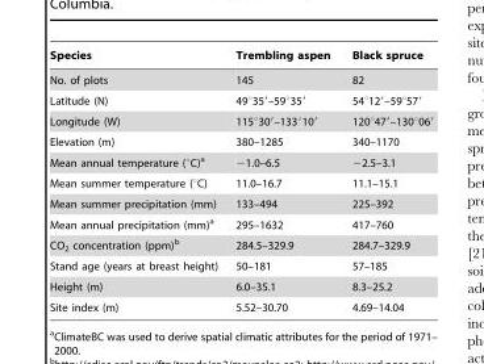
<table><thead><tr><td>Species</td><td>Trembling aspen</td><td>Black spruce</td></tr></thead><tbody><tr><td>No. of plots</td><td>145</td><td>82</td></tr><tr><td>Latitude (N)</td><td>49°35′–59°35′</td><td>54°12′–59°57′</td></tr><tr><td>Longitude (W)</td><td>115°30′–133°10′</td><td>120°47′–130°06′</td></tr><tr><td>Elevation (m)</td><td>380–1285</td><td>340–1170</td></tr><tr><td>Mean annual temperature (°C)<sup>a</sup></td><td>−1.0–6.5</td><td>−2.5–3.1</td></tr><tr><td>Mean summer temperature (°C)</td><td>11.0–16.7</td><td>11.1–15.1</td></tr><tr><td>Mean summer precipitation (mm)</td><td>133–494</td><td>225–392</td></tr><tr><td>Mean annual precipitation (mm)<sup>a</sup></td><td>295–1632</td><td>417–760</td></tr><tr><td>CO<sub>2</sub> concentration (ppm)<sup>b</sup></td><td>284.5–329.9</td><td>284.7–329.9</td></tr><tr><td>Stand age (years at breast height)</td><td>50–181</td><td>57–185</td></tr><tr><td>Height (m)</td><td>6.0–35.1</td><td>8.3–25.2</td></tr><tr><td>Site index (m)</td><td>5.52–30.70</td><td>4.69–14.04</td></tr></tbody></table>